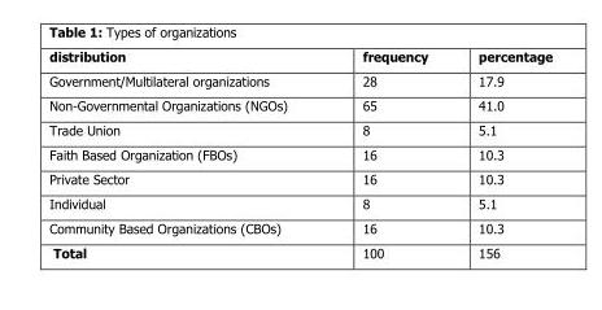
<table><thead><tr><td>distribution</td><td>frequency</td><td>percentage</td></tr></thead><tbody><tr><td>Government/Multilateral organizations</td><td>28</td><td>17.9</td></tr><tr><td>Non-Governmental Organizations (NGOs)</td><td>65</td><td>41.0</td></tr><tr><td>Trade Union</td><td>8</td><td>5.1</td></tr><tr><td>Faith Based Organization (FBOs)</td><td>16</td><td>10.3</td></tr><tr><td>Private Sector</td><td>16</td><td>10.3</td></tr><tr><td>Individual</td><td>8</td><td>5.1</td></tr><tr><td>Community Based Organizations (CBOs)</td><td>16</td><td>10.3</td></tr><tr><td>Total</td><td>100</td><td>156</td></tr></tbody></table>